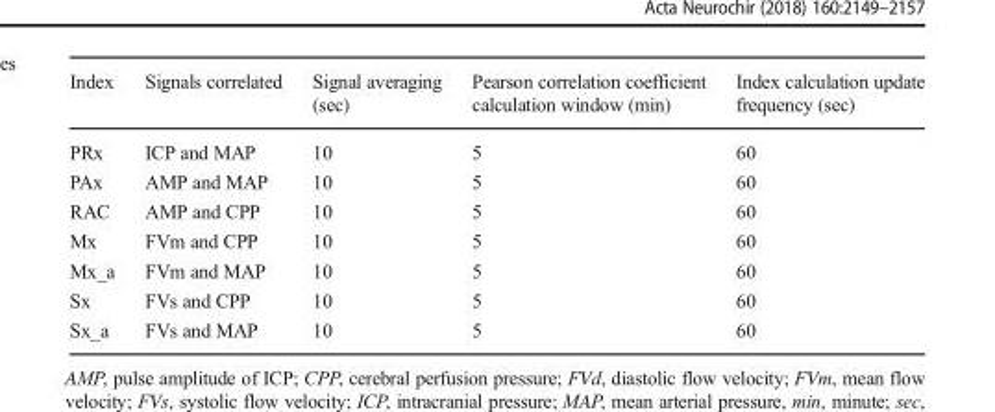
<table><thead><tr><td>Index</td><td>Signals correlated</td><td>Signal averaging (sec)</td><td>Pearson correlation coefficient calculation window (min)</td><td>Index calculation update frequency (sec)</td></tr></thead><tbody><tr><td>PRx</td><td>ICP and MAP</td><td>10</td><td>5</td><td>60</td></tr><tr><td>PAx</td><td>AMP and MAP</td><td>10</td><td>5</td><td>60</td></tr><tr><td>RAC</td><td>AMP and CPP</td><td>10</td><td>5</td><td>60</td></tr><tr><td>Mx</td><td>FVm and CPP</td><td>10</td><td>5</td><td>60</td></tr><tr><td>Mx_a</td><td>FVm and MAP</td><td>10</td><td>5</td><td>60</td></tr><tr><td>Sx</td><td>FVs and CPP</td><td>10</td><td>5</td><td>60</td></tr><tr><td>Sx_a</td><td>FVs and MAP</td><td>10</td><td>5</td><td>60</td></tr></tbody></table>